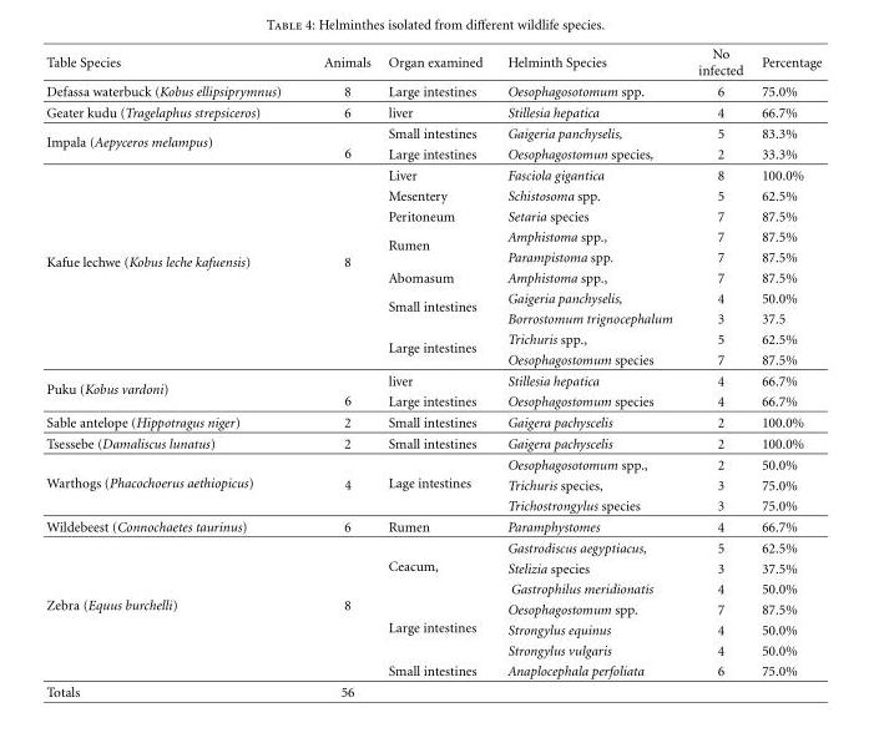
<table><thead><tr><td>Table Species</td><td>Animals</td><td>Organ examined</td><td>Helminth Species</td><td>No infected</td><td>Percentage</td></tr></thead><tbody><tr><td>Defassa waterbuck (Kobus ellipsiprymnus)</td><td>8</td><td>Large intestines</td><td>Oesophagosotomum spp.</td><td>6</td><td>75.0%</td></tr><tr><td>Geater kudu (Tragelaphus strepsiceros)</td><td>6</td><td>liver</td><td>Stillesia hepatica</td><td>4</td><td>66.7%</td></tr><tr><td rowspan="2">Impala (Aepyceros melampus)</td><td rowspan="2">6</td><td>Small intestines</td><td>Gaigeria panchyselis,</td><td>5</td><td>83.3%</td></tr><tr><td>Large intestines</td><td>Oesophagostomun species,</td><td>2</td><td>33.3%</td></tr><tr><td rowspan="10">Kafue lechwe (Kobus leche kafuensis)</td><td rowspan="10">8</td><td>Liver</td><td>Fasciola gigantica</td><td>8</td><td>100.0%</td></tr><tr><td>Mesentery</td><td>Schistosoma spp.</td><td>5</td><td>62.5%</td></tr><tr><td>Peritoneum</td><td>Setaria species</td><td>7</td><td>87.5%</td></tr><tr><td rowspan="2">Rumen</td><td>Amphistoma spp.,</td><td>7</td><td>87.5%</td></tr><tr><td>Parampistoma spp.</td><td>7</td><td>87.5%</td></tr><tr><td>Abomasum</td><td>Amphistoma spp.,</td><td>7</td><td>87.5%</td></tr><tr><td rowspan="2">Small intestines</td><td>Gaigeria panchyselis,</td><td>4</td><td>50.0%</td></tr><tr><td>Borrostomum trignocephalum</td><td>3</td><td>37.5</td></tr><tr><td rowspan="2">Large intestines</td><td>Trichuris spp.,</td><td>5</td><td>62.5%</td></tr><tr><td>Oesophagostomum species</td><td>7</td><td>87.5%</td></tr><tr><td rowspan="2">Puku (Kobus vardoni)</td><td rowspan="2">6</td><td>liver</td><td>Stillesia hepatica</td><td>4</td><td>66.7%</td></tr><tr><td>Large intestines</td><td>Oesophagostomum species</td><td>4</td><td>66.7%</td></tr><tr><td>Sable antelope (Hippotragus niger)</td><td>2</td><td>Small intestines</td><td>Gaigera pachyscelis</td><td>2</td><td>100.0%</td></tr><tr><td>Tsessebe (Damaliscus lunatus)</td><td>2</td><td>Small intestines</td><td>Gaigera pachyscelis</td><td>2</td><td>100.0%</td></tr><tr><td rowspan="3">Warthogs (Phacochoerus aethiopicus)</td><td rowspan="3">4</td><td rowspan="3">Lage intestines</td><td>Oesophagosotomum spp.,</td><td>2</td><td>50.0%</td></tr><tr><td>Trichuris species,</td><td>3</td><td>75.0%</td></tr><tr><td>Trichostrongylus species</td><td>3</td><td>75.0%</td></tr><tr><td>Wildebeest (Connochaetes taurinus)</td><td>6</td><td>Rumen</td><td>Paramphystomes</td><td>4</td><td>66.7%</td></tr><tr><td rowspan="7">Zebra (Equus burchelli)</td><td rowspan="7">8</td><td rowspan="3">Ceacum,</td><td>Gastrodiscus aegyptiacus,</td><td>5</td><td>62.5%</td></tr><tr><td>Stelizia species</td><td>3</td><td>37.5%</td></tr><tr><td>Gastrophilus meridionatis</td><td>4</td><td>50.0%</td></tr><tr><td rowspan="3">Large intestines</td><td>Oesophagostomum spp.</td><td>7</td><td>87.5%</td></tr><tr><td>Strongylus equinus</td><td>4</td><td>50.0%</td></tr><tr><td>Strongylus vulgaris</td><td>4</td><td>50.0%</td></tr><tr><td>Small intestines</td><td>Anaplocephala perfoliata</td><td>6</td><td>75.0%</td></tr><tr><td>Totals</td><td>56</td><td></td><td></td><td></td><td></td></tr></tbody></table>